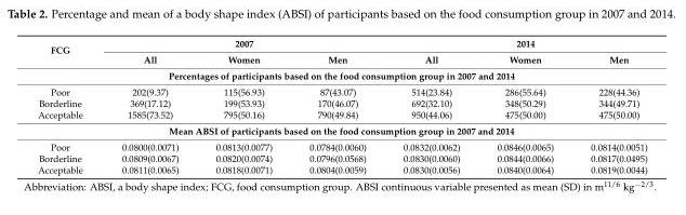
<table><thead><tr><td rowspan="2">FCG</td><td colspan="3">2007</td><td colspan="3">2014</td></tr><tr><td>All</td><td>Women</td><td>Men</td><td>All</td><td>Women</td><td>Men</td></tr></thead><tbody><tr><td colspan="7">Percentages of participants based on the food consumption group in 2007 and 2014</td></tr><tr><td>Poor</td><td>202(9.37)</td><td>115(56.93)</td><td>87(43.07)</td><td>514(23.84)</td><td>286(55.64)</td><td>228(44.36)</td></tr><tr><td>Borderline</td><td>369(17.12)</td><td>199(53.93)</td><td>170(46.07)</td><td>692(32.10)</td><td>348(50.29)</td><td>344(49.71)</td></tr><tr><td>Acceptable</td><td>1585(73.52)</td><td>795(50.16)</td><td>790(49.84)</td><td>950(44.06)</td><td>475(50.00)</td><td>475(50.00)</td></tr><tr><td colspan="7">Mean ABSI of participants based on the food consumption group in 2007 and 2014</td></tr><tr><td>Poor</td><td>0.0800(0.0071)</td><td>0.0813(0.0077)</td><td>0.0784(0.0060)</td><td>0.0832(0.0062)</td><td>0.0846(0.0065)</td><td>0.0814(0.0051)</td></tr><tr><td>Borderline</td><td>0.0809(0.0067)</td><td>0.0820(0.0074)</td><td>0.0796(0.0568)</td><td>0.0830(0.0060)</td><td>0.0844(0.0066)</td><td>0.0817(0.0495)</td></tr><tr><td>Acceptable</td><td>0.0811(0.0065)</td><td>0.0818(0.0071)</td><td>0.0804(0.0059)</td><td>0.0830(0.0056)</td><td>0.0840(0.0064)</td><td>0.0819(0.0044)</td></tr></tbody></table>